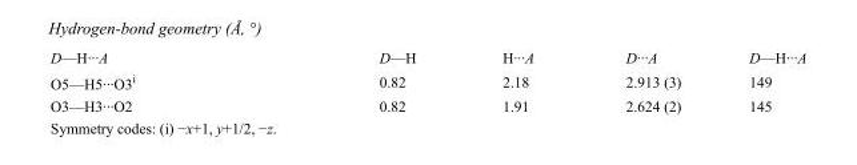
<table><tbody><tr><td>D—H···A</td><td>D—H</td><td>H···A</td><td>D···A</td><td>D—H···A</td></tr><tr><td>O5—H5···O3<sup>i</sup></td><td>0.82</td><td>2.18</td><td>2.913 (3)</td><td>149</td></tr><tr><td>O3—H3···O2</td><td>0.82</td><td>1.91</td><td>2.624 (2)</td><td>145</td></tr></tbody></table>